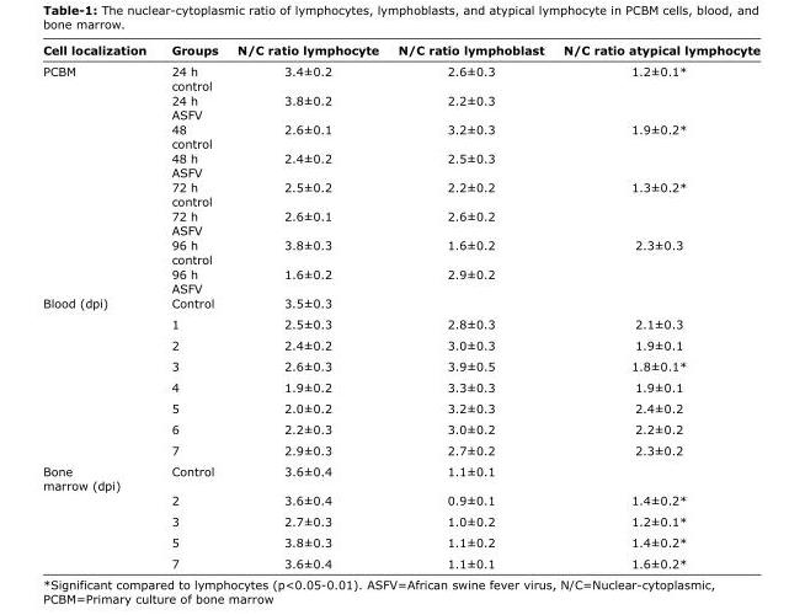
<table><thead><tr><td>Cell localization</td><td>Groups</td><td>N/C ratio lymphocyte</td><td>N/C ratio lymphoblast</td><td>N/C ratio atypical lymphocyte</td></tr></thead><tbody><tr><td rowspan="8">PCBM</td><td>24 h control</td><td>3.4±0.2</td><td>2.6±0.3</td><td>1.2±0.1*</td></tr><tr><td>24 h ASFV</td><td>3.8±0.2</td><td>2.2±0.3</td><td></td></tr><tr><td>48 control</td><td>2.6±0.1</td><td>3.2±0.3</td><td>1.9±0.2*</td></tr><tr><td>48 h ASFV</td><td>2.4±0.2</td><td>2.5±0.3</td><td></td></tr><tr><td>72 h control</td><td>2.5±0.2</td><td>2.2±0.2</td><td>1.3±0.2*</td></tr><tr><td>72 h ASFV</td><td>2.6±0.1</td><td>2.6±0.2</td><td></td></tr><tr><td>96 h control</td><td>3.8±0.3</td><td>1.6±0.2</td><td>2.3±0.3</td></tr><tr><td>96 h ASFV</td><td>1.6±0.2</td><td>2.9±0.2</td><td></td></tr><tr><td rowspan="8">Blood (dpi)</td><td>Control</td><td>3.5±0.3</td><td></td><td></td></tr><tr><td>1</td><td>2.5±0.3</td><td>2.8±0.3</td><td>2.1±0.3</td></tr><tr><td>2</td><td>2.4±0.2</td><td>3.0±0.3</td><td>1.9±0.1</td></tr><tr><td>3</td><td>2.6±0.3</td><td>3.9±0.5</td><td>1.8±0.1*</td></tr><tr><td>4</td><td>1.9±0.2</td><td>3.3±0.3</td><td>1.9±0.1</td></tr><tr><td>5</td><td>2.0±0.2</td><td>3.2±0.3</td><td>2.4±0.2</td></tr><tr><td>6</td><td>2.2±0.3</td><td>3.0±0.2</td><td>2.2±0.2</td></tr><tr><td>7</td><td>2.9±0.3</td><td>2.7±0.2</td><td>2.3±0.2</td></tr><tr><td rowspan="5">Bone marrow (dpi)</td><td>Control</td><td>3.6±0.4</td><td>1.1±0.1</td><td></td></tr><tr><td>2</td><td>3.6±0.4</td><td>0.9±0.1</td><td>1.4±0.2*</td></tr><tr><td>3</td><td>2.7±0.3</td><td>1.0±0.2</td><td>1.2±0.1*</td></tr><tr><td>5</td><td>3.8±0.3</td><td>1.1±0.2</td><td>1.4±0.2*</td></tr><tr><td>7</td><td>3.6±0.4</td><td>1.1±0.1</td><td>1.6±0.2*</td></tr></tbody></table>